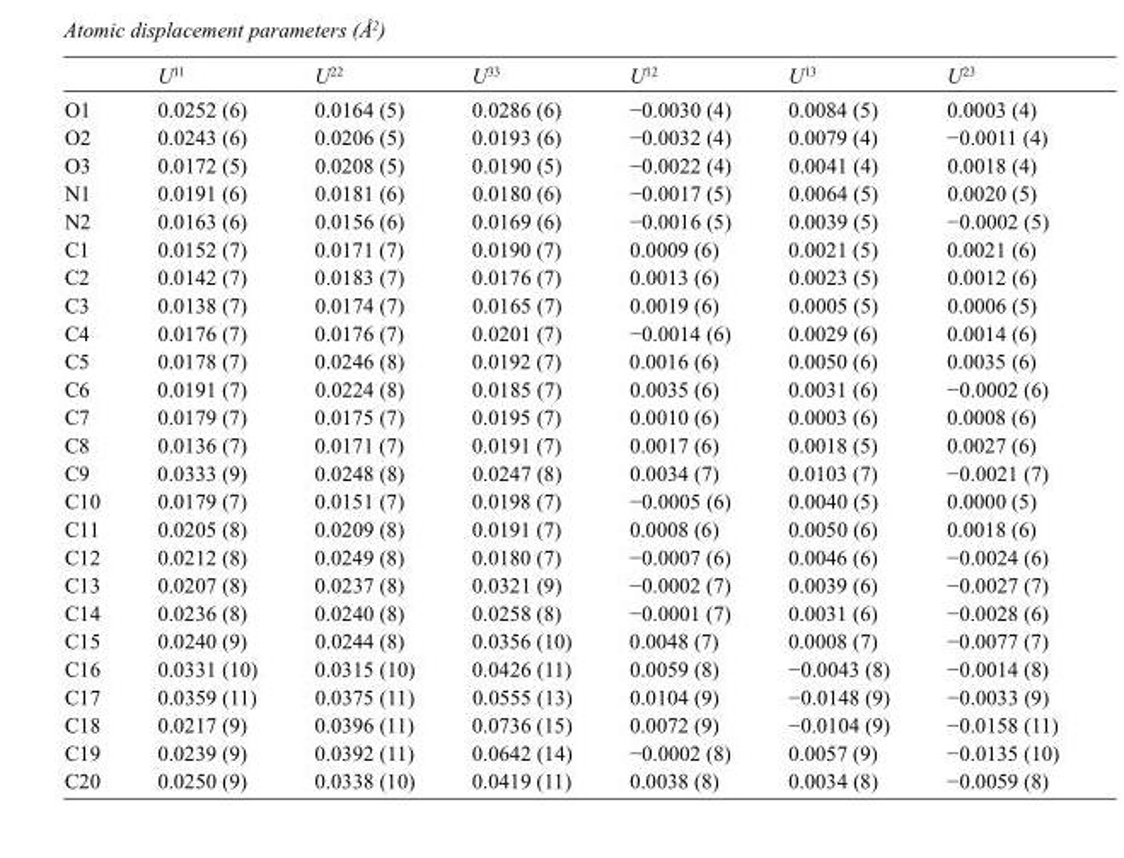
<table><thead><tr><td></td><td>U<sup>11</sup></td><td>U<sup>22</sup></td><td>U<sup>33</sup></td><td>U<sup>12</sup></td><td>U<sup>13</sup></td><td>U<sup>23</sup></td></tr></thead><tbody><tr><td>O1</td><td>0.0252 (6)</td><td>0.0164 (5)</td><td>0.0286 (6)</td><td>−0.0030 (4)</td><td>0.0084 (5)</td><td>0.0003 (4)</td></tr><tr><td>O2</td><td>0.0243 (6)</td><td>0.0206 (5)</td><td>0.0193 (6)</td><td>−0.0032 (4)</td><td>0.0079 (4)</td><td>−0.0011 (4)</td></tr><tr><td>O3</td><td>0.0172 (5)</td><td>0.0208 (5)</td><td>0.0190 (5)</td><td>−0.0022 (4)</td><td>0.0041 (4)</td><td>0.0018 (4)</td></tr><tr><td>N1</td><td>0.0191 (6)</td><td>0.0181 (6)</td><td>0.0180 (6)</td><td>−0.0017 (5)</td><td>0.0064 (5)</td><td>0.0020 (5)</td></tr><tr><td>N2</td><td>0.0163 (6)</td><td>0.0156 (6)</td><td>0.0169 (6)</td><td>−0.0016 (5)</td><td>0.0039 (5)</td><td>−0.0002 (5)</td></tr><tr><td>C1</td><td>0.0152 (7)</td><td>0.0171 (7)</td><td>0.0190 (7)</td><td>0.0009 (6)</td><td>0.0021 (5)</td><td>0.0021 (6)</td></tr><tr><td>C2</td><td>0.0142 (7)</td><td>0.0183 (7)</td><td>0.0176 (7)</td><td>0.0013 (6)</td><td>0.0023 (5)</td><td>0.0012 (6)</td></tr><tr><td>C3</td><td>0.0138 (7)</td><td>0.0174 (7)</td><td>0.0165 (7)</td><td>0.0019 (6)</td><td>0.0005 (5)</td><td>0.0006 (5)</td></tr><tr><td>C4</td><td>0.0176 (7)</td><td>0.0176 (7)</td><td>0.0201 (7)</td><td>−0.0014 (6)</td><td>0.0029 (6)</td><td>0.0014 (6)</td></tr><tr><td>C5</td><td>0.0178 (7)</td><td>0.0246 (8)</td><td>0.0192 (7)</td><td>0.0016 (6)</td><td>0.0050 (6)</td><td>0.0035 (6)</td></tr><tr><td>C6</td><td>0.0191 (7)</td><td>0.0224 (8)</td><td>0.0185 (7)</td><td>0.0035 (6)</td><td>0.0031 (6)</td><td>−0.0002 (6)</td></tr><tr><td>C7</td><td>0.0179 (7)</td><td>0.0175 (7)</td><td>0.0195 (7)</td><td>0.0010 (6)</td><td>0.0003 (6)</td><td>0.0008 (6)</td></tr><tr><td>C8</td><td>0.0136 (7)</td><td>0.0171 (7)</td><td>0.0191 (7)</td><td>0.0017 (6)</td><td>0.0018 (5)</td><td>0.0027 (6)</td></tr><tr><td>C9</td><td>0.0333 (9)</td><td>0.0248 (8)</td><td>0.0247 (8)</td><td>0.0034 (7)</td><td>0.0103 (7)</td><td>−0.0021 (7)</td></tr><tr><td>C10</td><td>0.0179 (7)</td><td>0.0151 (7)</td><td>0.0198 (7)</td><td>−0.0005 (6)</td><td>0.0040 (5)</td><td>0.0000 (5)</td></tr><tr><td>C11</td><td>0.0205 (8)</td><td>0.0209 (8)</td><td>0.0191 (7)</td><td>0.0008 (6)</td><td>0.0050 (6)</td><td>0.0018 (6)</td></tr><tr><td>C12</td><td>0.0212 (8)</td><td>0.0249 (8)</td><td>0.0180 (7)</td><td>−0.0007 (6)</td><td>0.0046 (6)</td><td>−0.0024 (6)</td></tr><tr><td>C13</td><td>0.0207 (8)</td><td>0.0237 (8)</td><td>0.0321 (9)</td><td>−0.0002 (7)</td><td>0.0039 (6)</td><td>−0.0027 (7)</td></tr><tr><td>C14</td><td>0.0236 (8)</td><td>0.0240 (8)</td><td>0.0258 (8)</td><td>−0.0001 (7)</td><td>0.0031 (6)</td><td>−0.0028 (6)</td></tr><tr><td>C15</td><td>0.0240 (9)</td><td>0.0244 (8)</td><td>0.0356 (10)</td><td>0.0048 (7)</td><td>0.0008 (7)</td><td>−0.0077 (7)</td></tr><tr><td>C16</td><td>0.0331 (10)</td><td>0.0315 (10)</td><td>0.0426 (11)</td><td>0.0059 (8)</td><td>−0.0043 (8)</td><td>−0.0014 (8)</td></tr><tr><td>C17</td><td>0.0359 (11)</td><td>0.0375 (11)</td><td>0.0555 (13)</td><td>0.0104 (9)</td><td>−0.0148 (9)</td><td>−0.0033 (9)</td></tr><tr><td>C18</td><td>0.0217 (9)</td><td>0.0396 (11)</td><td>0.0736 (15)</td><td>0.0072 (9)</td><td>−0.0104 (9)</td><td>−0.0158 (11)</td></tr><tr><td>C19</td><td>0.0239 (9)</td><td>0.0392 (11)</td><td>0.0642 (14)</td><td>−0.0002 (8)</td><td>0.0057 (9)</td><td>−0.0135 (10)</td></tr><tr><td>C20</td><td>0.0250 (9)</td><td>0.0338 (10)</td><td>0.0419 (11)</td><td>0.0038 (8)</td><td>0.0034 (8)</td><td>−0.0059 (8)</td></tr></tbody></table>